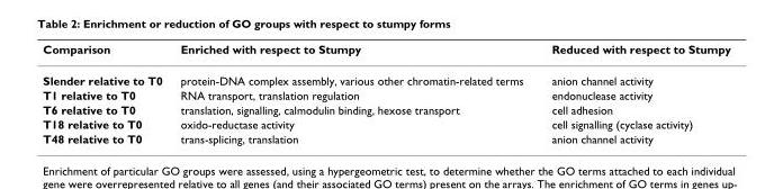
<table><thead><tr><td>Comparison</td><td>Enriched with respect to Stumpy</td><td>Reduced with respect to Stumpy</td></tr></thead><tbody><tr><td>Slender relative to T0</td><td>protein-DNA complex assembly, various other chromatin-related terms</td><td>anion channel activity</td></tr><tr><td>T1 relative to T0</td><td>RNA transport, translation regulation</td><td>endonuclease activity</td></tr><tr><td>T6 relative to T0</td><td>translation, signalling, calmodulin binding, hexose transport</td><td>cell adhesion</td></tr><tr><td>T18 relative to T0</td><td>oxido-reductase activity</td><td>cell signalling (cyclase activity)</td></tr><tr><td>T48 relative to T0</td><td>trans-splicing, translation</td><td>anion channel activity</td></tr></tbody></table>